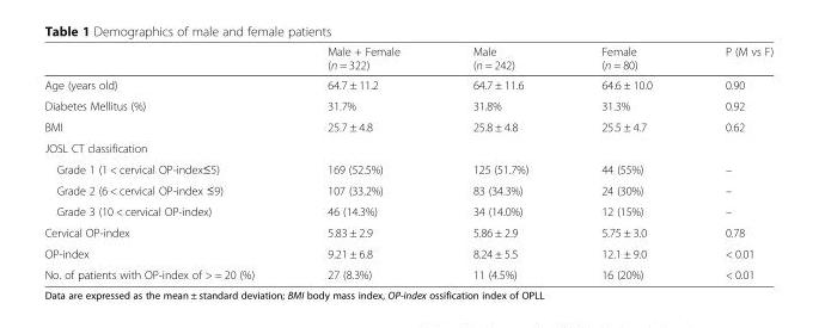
<table><thead><tr><td></td><td>Male + Female (n = 322)</td><td>Male (n = 242)</td><td>Female (n = 80)</td><td>P (M vs F)</td></tr></thead><tbody><tr><td>Age (years old)</td><td>64.7 ± 11.2</td><td>64.7 ± 11.6</td><td>64.6 ± 10.0</td><td>0.90</td></tr><tr><td>Diabetes Mellitus (%)</td><td>31.7%</td><td>31.8%</td><td>31.3%</td><td>0.92</td></tr><tr><td>BMI</td><td>25.7 ± 4.8</td><td>25.8 ± 4.8</td><td>25.5 ± 4.7</td><td>0.62</td></tr><tr><td colspan="5">JOSL CT classification</td></tr><tr><td>Grade 1 (1 &lt; cervical OP-index≤5)</td><td>169 (52.5%)</td><td>125 (51.7%)</td><td>44 (55%)</td><td>–</td></tr><tr><td>Grade 2 (6 &lt; cervical OP-index ≤9)</td><td>107 (33.2%)</td><td>83 (34.3%)</td><td>24 (30%)</td><td>–</td></tr><tr><td>Grade 3 (10 &lt; cervical OP-index)</td><td>46 (14.3%)</td><td>34 (14.0%)</td><td>12 (15%)</td><td>–</td></tr><tr><td>Cervical OP-index</td><td>5.83 ± 2.9</td><td>5.86 ± 2.9</td><td>5.75 ± 3.0</td><td>0.78</td></tr><tr><td>OP-index</td><td>9.21 ± 6.8</td><td>8.24 ± 5.5</td><td>12.1 ± 9.0</td><td>&lt; 0.01</td></tr><tr><td>No. of patients with OP-index of &gt; = 20 (%)</td><td>27 (8.3%)</td><td>11 (4.5%)</td><td>16 (20%)</td><td>&lt; 0.01</td></tr></tbody></table>